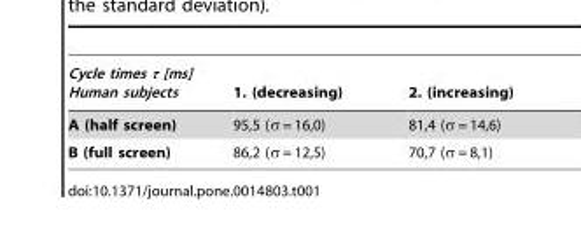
<table><thead><tr><td>Cycle times τ [ms] Human subjects</td><td>1. (decreasing)</td><td>2. (increasing)</td></tr></thead><tbody><tr><td>A (half screen)</td><td>95,5 (σ = 16,0)</td><td>81,4 (σ = 14,6)</td></tr><tr><td>B (full screen)</td><td>86,2 (σ = 12,5)</td><td>70,7 (σ = 8,1)</td></tr></tbody></table>